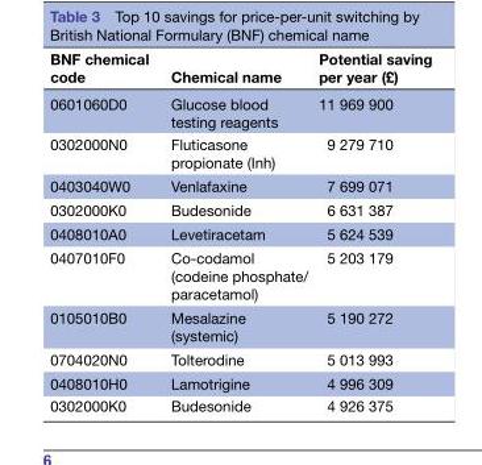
<table><thead><tr><td>BNF chemical code</td><td>Chemical name</td><td>Potential saving per year (£)</td></tr></thead><tbody><tr><td>0601060D0</td><td>Glucose blood testing reagents</td><td>11 969 900</td></tr><tr><td>0302000N0</td><td>Fluticasone propionate (Inh)</td><td>9 279 710</td></tr><tr><td>0403040W0</td><td>Venlafaxine</td><td>7 699 071</td></tr><tr><td>0302000K0</td><td>Budesonide</td><td>6 631 387</td></tr><tr><td>0408010A0</td><td>Levetiracetam</td><td>5 624 539</td></tr><tr><td>0407010F0</td><td>Co-codamol (codeine phosphate/ paracetamol)</td><td>5 203 179</td></tr><tr><td>0105010B0</td><td>Mesalazine (systemic)</td><td>5 190 272</td></tr><tr><td>0704020N0</td><td>Tolterodine</td><td>5 013 993</td></tr><tr><td>0408010H0</td><td>Lamotrigine</td><td>4 996 309</td></tr><tr><td>0302000K0</td><td>Budesonide</td><td>4 926 375</td></tr></tbody></table>